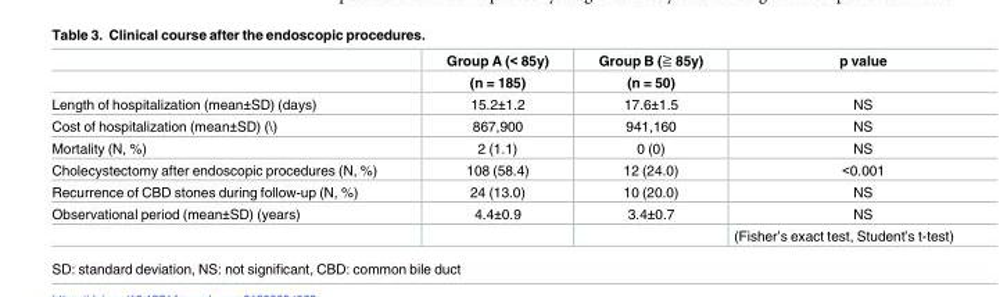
<table><thead><tr><td rowspan="2"></td><td rowspan="2">Group A (&lt; 85y) (n = 185)</td><td rowspan="2">Group B (≧ 85y) (n = 50)</td><td rowspan="2">p value</td></tr><tr></tr></thead><tbody><tr><td>Length of hospitalization (mean±SD) (days)</td><td>15.2±1.2</td><td>17.6±1.5</td><td>NS</td></tr><tr><td>Cost of hospitalization (mean±SD) (\)</td><td>867,900</td><td>941,160</td><td>NS</td></tr><tr><td>Mortality (N, %)</td><td>2 (1.1)</td><td>0 (0)</td><td>NS</td></tr><tr><td>Cholecystectomy after endoscopic procedures (N, %)</td><td>108 (58.4)</td><td>12 (24.0)</td><td>&lt;0.001</td></tr><tr><td>Recurrence of CBD stones during follow-up (N, %)</td><td>24 (13.0)</td><td>10 (20.0)</td><td>NS</td></tr><tr><td rowspan="2">Observational period (mean±SD) (years)</td><td>4.4±0.9</td><td>3.4±0.7</td><td>NS</td></tr><tr><td></td><td></td><td>(Fisher’s exact test, Student’s t-test)</td></tr></tbody></table>